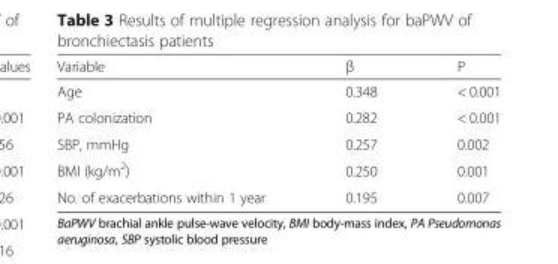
<table><thead><tr><td>Variable</td><td>β</td><td>P</td></tr></thead><tbody><tr><td>Age</td><td>0.348</td><td>&lt; 0.001</td></tr><tr><td>PA colonization</td><td>0.282</td><td>&lt; 0.001</td></tr><tr><td>SBP, mmHg</td><td>0.257</td><td>0.002</td></tr><tr><td>BMI (kg/m<sup>2</sup>)</td><td>0.250</td><td>0.001</td></tr><tr><td>No. of exacerbations within 1 year</td><td>0.195</td><td>0.007</td></tr></tbody></table>